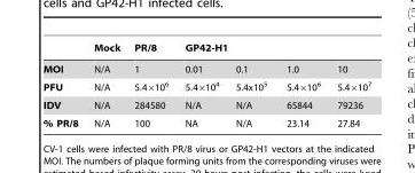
<table><thead><tr><td rowspan="2">MOI</td><td rowspan="2">Mock N/A</td><td rowspan="2">PR/8 1</td><td colspan="4">GP42-H1</td></tr><tr><td>0.01</td><td>0.1</td><td>1.0</td><td>10</td></tr></thead><tbody><tr><td>PFU</td><td>N/A</td><td>5.4×10<sup>6</sup></td><td>5.4×10<sup>4</sup></td><td>5.4x10<sup>5</sup></td><td>5.4×10<sup>6</sup></td><td>5.4×10<sup>7</sup></td></tr><tr><td>IDV</td><td>N/A</td><td>284580</td><td>N/A</td><td>N/A</td><td>65844</td><td>79236</td></tr><tr><td>% PR/8</td><td>N/A</td><td>100</td><td>NA</td><td>N/A</td><td>23.14</td><td>27.84</td></tr></tbody></table>